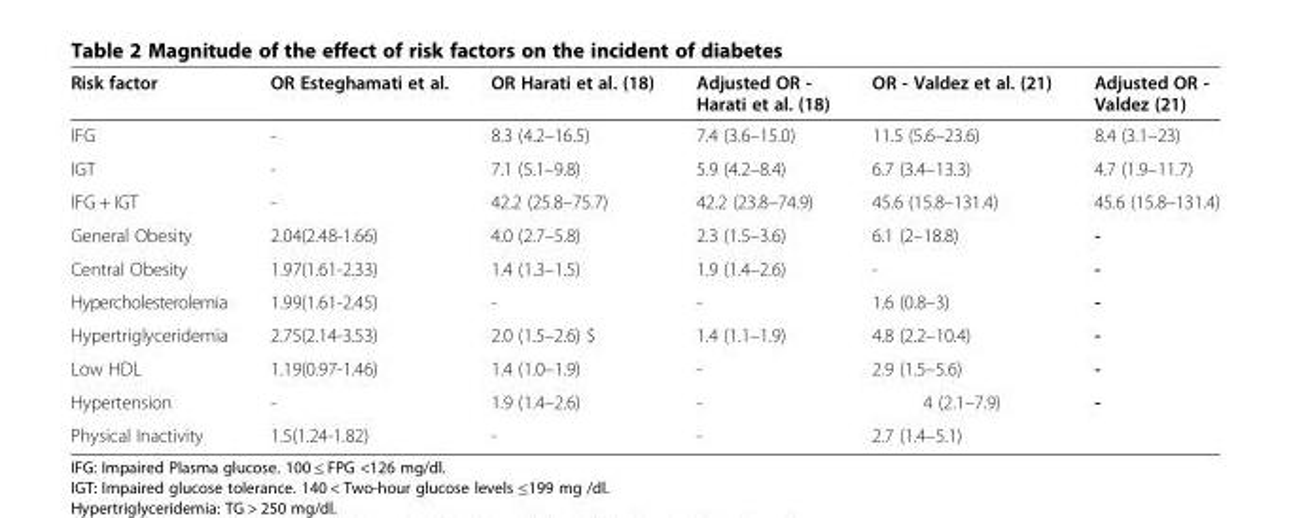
<table><thead><tr><td>Risk factor</td><td>OR Esteghamati et al.</td><td>OR Harati et al. (18)</td><td>Adjusted OR - Harati et al. (18)</td><td>OR - Valdez et al. (21)</td><td>Adjusted OR - Valdez (21)</td></tr></thead><tbody><tr><td>IFG</td><td>-</td><td>8.3 (4.2–16.5)</td><td>7.4 (3.6–15.0)</td><td>11.5 (5.6–23.6)</td><td>8.4 (3.1–23)</td></tr><tr><td>IGT</td><td>-</td><td>7.1 (5.1–9.8)</td><td>5.9 (4.2–8.4)</td><td>6.7 (3.4–13.3)</td><td>4.7 (1.9–11.7)</td></tr><tr><td>IFG + IGT</td><td>-</td><td>42.2 (25.8–75.7)</td><td>42.2 (23.8–74.9)</td><td>45.6 (15.8–131.4)</td><td>45.6 (15.8–131.4)</td></tr><tr><td>General Obesity</td><td>2.04(2.48-1.66)</td><td>4.0 (2.7–5.8)</td><td>2.3 (1.5–3.6)</td><td>6.1 (2–18.8)</td><td>-</td></tr><tr><td>Central Obesity</td><td>1.97(1.61-2.33)</td><td>1.4 (1.3–1.5)</td><td>1.9 (1.4–2.6)</td><td>-</td><td>-</td></tr><tr><td>Hypercholesterolemia</td><td>1.99(1.61-2.45)</td><td>-</td><td>-</td><td>1.6 (0.8–3)</td><td>-</td></tr><tr><td>Hypertriglyceridemia</td><td>2.75(2.14-3.53)</td><td>2.0 (1.5–2.6) $</td><td>1.4 (1.1–1.9)</td><td>4.8 (2.2–10.4)</td><td>-</td></tr><tr><td>Low HDL</td><td>1.19(0.97-1.46)</td><td>1.4 (1.0–1.9)</td><td>-</td><td>2.9 (1.5–5.6)</td><td>-</td></tr><tr><td>Hypertension</td><td>-</td><td>1.9 (1.4–2.6)</td><td>-</td><td>4 (2.1–7.9)</td><td>-</td></tr><tr><td>Physical Inactivity</td><td>1.5(1.24-1.82)</td><td>-</td><td>-</td><td>2.7 (1.4–5.1)</td><td></td></tr></tbody></table>